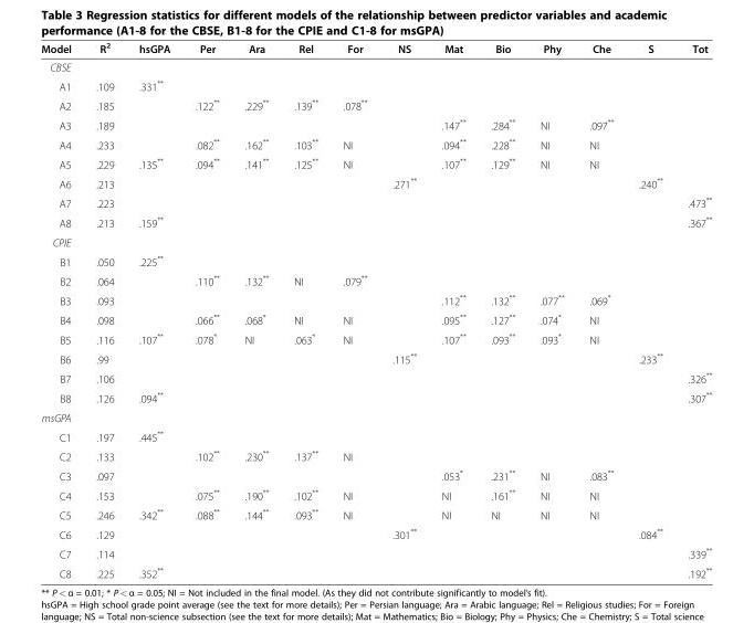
<table><thead><tr><td>Model</td><td>R<sup>2</sup></td><td>hsGPA</td><td>Per</td><td>Ara</td><td>Rel</td><td>For</td><td>NS</td><td>Mat</td><td>Bio</td><td>Phy</td><td>Che</td><td>S</td><td>Tot</td></tr></thead><tbody><tr><td colspan="14">CBSE</td></tr><tr><td>A1</td><td>.109</td><td>.331**</td><td></td><td></td><td></td><td></td><td></td><td></td><td></td><td></td><td></td><td></td><td></td></tr><tr><td>A2</td><td>.185</td><td></td><td>.122**</td><td>.229**</td><td>.139**</td><td>.078**</td><td></td><td></td><td></td><td></td><td></td><td></td><td></td></tr><tr><td>A3</td><td>.189</td><td></td><td></td><td></td><td></td><td></td><td></td><td>.147**</td><td>.284**</td><td>NI</td><td>.097**</td><td></td><td></td></tr><tr><td>A4</td><td>.233</td><td></td><td>.082**</td><td>.162**</td><td>.103**</td><td>NI</td><td></td><td>.094**</td><td>.228**</td><td>NI</td><td>NI</td><td></td><td></td></tr><tr><td>A5</td><td>.229</td><td>.135**</td><td>.094**</td><td>.141**</td><td>.125**</td><td>NI</td><td></td><td>.107**</td><td>.129**</td><td>NI</td><td>NI</td><td></td><td></td></tr><tr><td>A6</td><td>.213</td><td></td><td></td><td></td><td></td><td></td><td>.271**</td><td></td><td></td><td></td><td></td><td>.240**</td><td></td></tr><tr><td>A7</td><td>.223</td><td></td><td></td><td></td><td></td><td></td><td></td><td></td><td></td><td></td><td></td><td></td><td>.473**</td></tr><tr><td>A8</td><td>.213</td><td>.159**</td><td></td><td></td><td></td><td></td><td></td><td></td><td></td><td></td><td></td><td></td><td>.367**</td></tr><tr><td colspan="14">CPIE</td></tr><tr><td>B1</td><td>.050</td><td>.225**</td><td></td><td></td><td></td><td></td><td></td><td></td><td></td><td></td><td></td><td></td><td></td></tr><tr><td>B2</td><td>.064</td><td></td><td>.110**</td><td>.132**</td><td>NI</td><td>.079**</td><td></td><td></td><td></td><td></td><td></td><td></td><td></td></tr><tr><td>B3</td><td>.093</td><td></td><td></td><td></td><td></td><td></td><td></td><td>.112**</td><td>.132**</td><td>.077**</td><td>.069*</td><td></td><td></td></tr><tr><td>B4</td><td>.098</td><td></td><td>.066**</td><td>.068*</td><td>NI</td><td>NI</td><td></td><td>.095**</td><td>.127**</td><td>.074*</td><td>NI</td><td></td><td></td></tr><tr><td>B5</td><td>.116</td><td>.107**</td><td>.078*</td><td>NI</td><td>.063*</td><td>NI</td><td></td><td>.107**</td><td>.093**</td><td>.093*</td><td>NI</td><td></td><td></td></tr><tr><td>B6</td><td>.99</td><td></td><td></td><td></td><td></td><td></td><td>.115**</td><td></td><td></td><td></td><td></td><td>.233**</td><td></td></tr><tr><td>B7</td><td>.106</td><td></td><td></td><td></td><td></td><td></td><td></td><td></td><td></td><td></td><td></td><td></td><td>.326**</td></tr><tr><td>B8</td><td>.126</td><td>.094**</td><td></td><td></td><td></td><td></td><td></td><td></td><td></td><td></td><td></td><td></td><td>.307**</td></tr><tr><td colspan="14">msGPA</td></tr><tr><td>C1</td><td>.197</td><td>.445**</td><td></td><td></td><td></td><td></td><td></td><td></td><td></td><td></td><td></td><td></td><td></td></tr><tr><td>C2</td><td>.133</td><td></td><td>.102**</td><td>.230**</td><td>.137**</td><td>NI</td><td></td><td></td><td></td><td></td><td></td><td></td><td></td></tr><tr><td>C3</td><td>.097</td><td></td><td></td><td></td><td></td><td></td><td></td><td>.053*</td><td>.231**</td><td>NI</td><td>.083**</td><td></td><td></td></tr><tr><td>C4</td><td>.153</td><td></td><td>.075**</td><td>.190**</td><td>.102**</td><td>NI</td><td></td><td>NI</td><td>.161**</td><td>NI</td><td>NI</td><td></td><td></td></tr><tr><td>C5</td><td>.246</td><td>.342**</td><td>.088**</td><td>.144**</td><td>.093**</td><td>NI</td><td></td><td>NI</td><td>NI</td><td>NI</td><td>NI</td><td></td><td></td></tr><tr><td>C6</td><td>.129</td><td></td><td></td><td></td><td></td><td></td><td>.301**</td><td></td><td></td><td></td><td></td><td>.084**</td><td></td></tr><tr><td>C7</td><td>.114</td><td></td><td></td><td></td><td></td><td></td><td></td><td></td><td></td><td></td><td></td><td></td><td>.339**</td></tr><tr><td>C8</td><td>.225</td><td>.352**</td><td></td><td></td><td></td><td></td><td></td><td></td><td></td><td></td><td></td><td></td><td>.192**</td></tr></tbody></table>